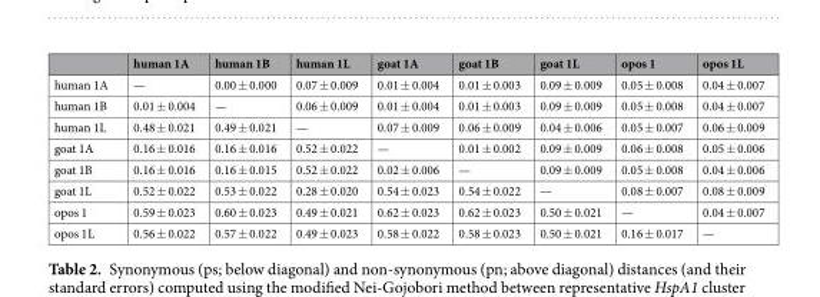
<table><thead><tr><td></td><td>human 1A</td><td>human 1B</td><td>human 1L</td><td>goat 1A</td><td>goat 1B</td><td>goat 1L</td><td>opos 1</td><td>opos 1L</td></tr></thead><tbody><tr><td>human 1A</td><td>—</td><td>0.00 ± 0.000</td><td>0.07 ± 0.009</td><td>0.01 ± 0.004</td><td>0.01 ± 0.003</td><td>0.09 ± 0.009</td><td>0.05 ± 0.008</td><td>0.04 ± 0.007</td></tr><tr><td>human 1B</td><td>0.01 ± 0.004</td><td>—</td><td>0.06 ± 0.009</td><td>0.01 ± 0.004</td><td>0.01 ± 0.003</td><td>0.09 ± 0.009</td><td>0.05 ± 0.008</td><td>0.04 ± 0.007</td></tr><tr><td>human 1L</td><td>0.48 ± 0.021</td><td>0.49 ± 0.021</td><td>—</td><td>0.07 ± 0.009</td><td>0.06 ± 0.009</td><td>0.04 ± 0.006</td><td>0.05 ± 0.007</td><td>0.06 ± 0.009</td></tr><tr><td>goat 1A</td><td>0.16 ± 0.016</td><td>0.16 ± 0.016</td><td>0.52 ± 0.022</td><td>—</td><td>0.01 ± 0.002</td><td>0.09 ± 0.009</td><td>0.06 ± 0.008</td><td>0.05 ± 0.006</td></tr><tr><td>goat 1B</td><td>0.16 ± 0.016</td><td>0.16 ± 0.015</td><td>0.52 ± 0.022</td><td>0.02 ± 0.006</td><td>—</td><td>0.09 ± 0.009</td><td>0.05 ± 0.008</td><td>0.04 ± 0.006</td></tr><tr><td>goat 1L</td><td>0.52 ± 0.022</td><td>0.53 ± 0.022</td><td>0.28 ± 0.020</td><td>0.54 ± 0.023</td><td>0.54 ± 0.022</td><td>—</td><td>0.08 ± 0.007</td><td>0.08 ± 0.009</td></tr><tr><td>opos 1</td><td>0.59 ± 0.023</td><td>0.60 ± 0.023</td><td>0.49 ± 0.021</td><td>0.62 ± 0.023</td><td>0.62 ± 0.023</td><td>0.50 ± 0.021</td><td>—</td><td>0.04 ± 0.007</td></tr><tr><td>opos 1L</td><td>0.56 ± 0.022</td><td>0.57 ± 0.022</td><td>0.49 ± 0.023</td><td>0.58 ± 0.022</td><td>0.58 ± 0.023</td><td>0.50 ± 0.021</td><td>0.16 ± 0.017</td><td>—</td></tr></tbody></table>